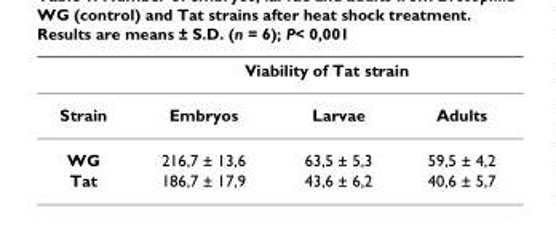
<table><thead><tr><td rowspan="2">Strain</td><td colspan="3">Viability of Tat strain</td></tr><tr><td>Embryos</td><td>Larvae</td><td>Adults</td></tr></thead><tbody><tr><td>WG</td><td>216,7 ± 13,6</td><td>63,5 ± 5,3</td><td>59,5 ± 4,2</td></tr><tr><td>Tat</td><td>186,7 ± 17,9</td><td>43,6 ± 6,2</td><td>40,6 ± 5,7</td></tr></tbody></table>